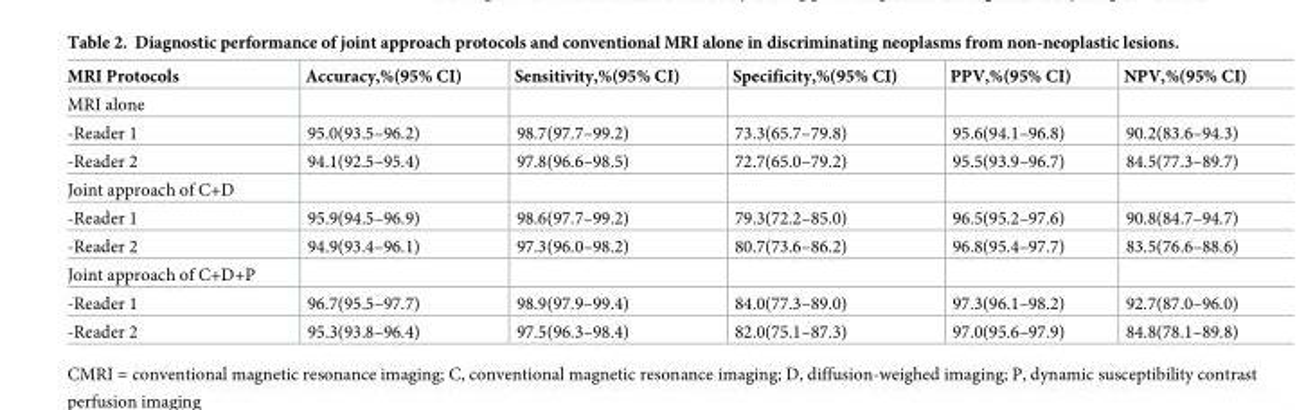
<table><thead><tr><td>MRI Protocols</td><td>Accuracy,%(95% CI)</td><td>Sensitivity,%(95% CI)</td><td>Specificity,%(95% CI)</td><td>PPV,%(95% CI)</td><td>NPV,%(95% CI)</td></tr></thead><tbody><tr><td colspan="6">MRI alone</td></tr><tr><td>-Reader 1</td><td>95.0(93.5–96.2)</td><td>98.7(97.7–99.2)</td><td>73.3(65.7–79.8)</td><td>95.6(94.1–96.8)</td><td>90.2(83.6–94.3)</td></tr><tr><td>-Reader 2</td><td>94.1(92.5–95.4)</td><td>97.8(96.6–98.5)</td><td>72.7(65.0–79.2)</td><td>95.5(93.9–96.7)</td><td>84.5(77.3–89.7)</td></tr><tr><td colspan="6">Joint approach of C+D</td></tr><tr><td>-Reader 1</td><td>95.9(94.5–96.9)</td><td>98.6(97.7–99.2)</td><td>79.3(72.2–85.0)</td><td>96.5(95.2–97.6)</td><td>90.8(84.7–94.7)</td></tr><tr><td>-Reader 2</td><td>94.9(93.4–96.1)</td><td>97.3(96.0–98.2)</td><td>80.7(73.6–86.2)</td><td>96.8(95.4–97.7)</td><td>83.5(76.6–88.6)</td></tr><tr><td colspan="6">Joint approach of C+D+P</td></tr><tr><td>-Reader 1</td><td>96.7(95.5–97.7)</td><td>98.9(97.9–99.4)</td><td>84.0(77.3–89.0)</td><td>97.3(96.1–98.2)</td><td>92.7(87.0–96.0)</td></tr><tr><td>-Reader 2</td><td>95.3(93.8–96.4)</td><td>97.5(96.3–98.4)</td><td>82.0(75.1–87.3)</td><td>97.0(95.6–97.9)</td><td>84.8(78.1–89.8)</td></tr></tbody></table>